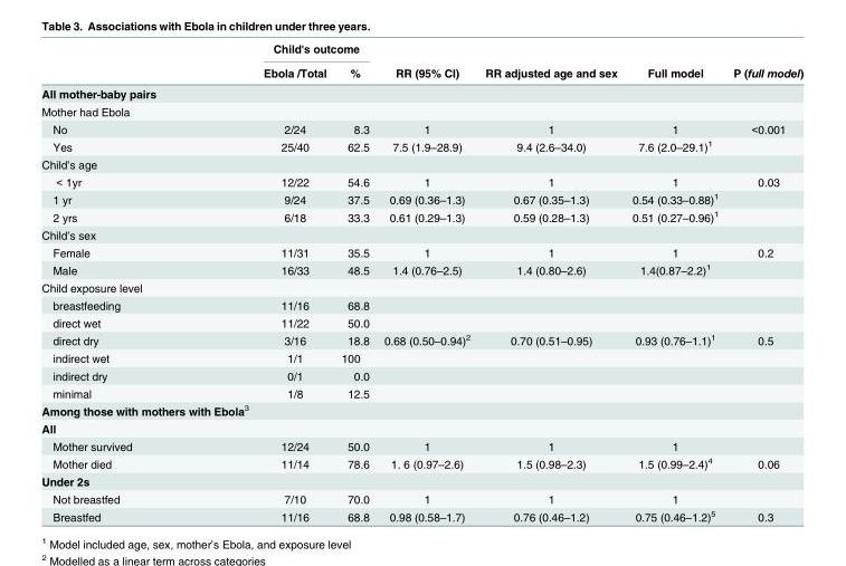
<table><thead><tr><td rowspan="2"></td><td colspan="2">Child&#x27;s outcome</td><td rowspan="2">RR (95% CI)</td><td rowspan="2">RR adjusted age and sex</td><td rowspan="2">Full model</td><td rowspan="2">P (full model)</td></tr><tr><td>Ebola /Total</td><td>%</td></tr></thead><tbody><tr><td colspan="7">All mother-baby pairs</td></tr><tr><td colspan="7">Mother had Ebola</td></tr><tr><td>No</td><td>2/24</td><td>8.3</td><td>1</td><td>1</td><td>1</td><td>&lt;0.001</td></tr><tr><td>Yes</td><td>25/40</td><td>62.5</td><td>7.5 (1.9–28.9)</td><td>9.4 (2.6–34.0)</td><td>7.6 (2.0–29.1)<sup>1</sup></td><td></td></tr><tr><td colspan="7">Child’s age</td></tr><tr><td>&lt; 1yr</td><td>12/22</td><td>54.6</td><td>1</td><td>1</td><td>1</td><td>0.03</td></tr><tr><td>1 yr</td><td>9/24</td><td>37.5</td><td>0.69 (0.36–1.3)</td><td>0.67 (0.35–1.3)</td><td>0.54 (0.33–0.88)<sup>1</sup></td><td></td></tr><tr><td>2 yrs</td><td>6/18</td><td>33.3</td><td>0.61 (0.29–1.3)</td><td>0.59 (0.28–1.3)</td><td>0.51 (0.27–0.96)<sup>1</sup></td><td></td></tr><tr><td colspan="7">Child’s sex</td></tr><tr><td>Female</td><td>11/31</td><td>35.5</td><td>1</td><td>1</td><td>1</td><td>0.2</td></tr><tr><td>Male</td><td>16/33</td><td>48.5</td><td>1.4 (0.76–2.5)</td><td>1.4 (0.80–2.6)</td><td>1.4(0.87–2.2)<sup>1</sup></td><td></td></tr><tr><td colspan="7">Child exposure level</td></tr><tr><td>breastfeeding</td><td>11/16</td><td>68.8</td><td></td><td></td><td></td><td></td></tr><tr><td>direct wet</td><td>11/22</td><td>50.0</td><td></td><td></td><td></td><td></td></tr><tr><td>direct dry</td><td>3/16</td><td>18.8</td><td>0.68 (0.50–0.94)<sup>2</sup></td><td>0.70 (0.51–0.95)</td><td>0.93 (0.76–1.1)<sup>1</sup></td><td>0.5</td></tr><tr><td>indirect wet</td><td>1/1</td><td>100</td><td></td><td></td><td></td><td></td></tr><tr><td>indirect dry</td><td>0/1</td><td>0.0</td><td></td><td></td><td></td><td></td></tr><tr><td>minimal</td><td>1/8</td><td>12.5</td><td></td><td></td><td></td><td></td></tr><tr><td colspan="7">Among those with mothers with Ebola<sup>3</sup></td></tr><tr><td colspan="7">All</td></tr><tr><td>Mother survived</td><td>12/24</td><td>50.0</td><td>1</td><td>1</td><td>1</td><td></td></tr><tr><td>Mother died</td><td>11/14</td><td>78.6</td><td>1. 6 (0.97–2.6)</td><td>1.5 (0.98–2.3)</td><td>1.5 (0.99–2.4)<sup>4</sup></td><td>0.06</td></tr><tr><td colspan="7">Under 2s</td></tr><tr><td>Not breastfed</td><td>7/10</td><td>70.0</td><td>1</td><td>1</td><td>1</td><td></td></tr><tr><td>Breastfed</td><td>11/16</td><td>68.8</td><td>0.98 (0.58–1.7)</td><td>0.76 (0.46–1.2)</td><td>0.75 (0.46–1.2)<sup>5</sup></td><td>0.3</td></tr></tbody></table>